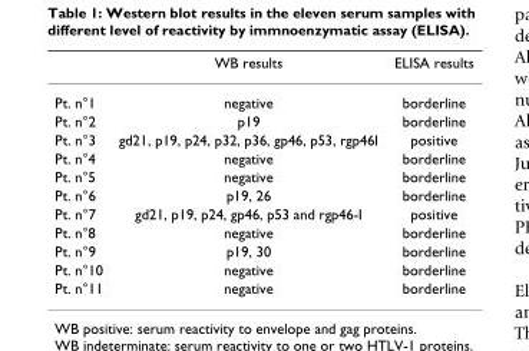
<table><thead><tr><td></td><td>WB results</td><td>ELISA results</td></tr></thead><tbody><tr><td>Pt. n°1</td><td>negative</td><td>borderline</td></tr><tr><td>Pt. n°2</td><td>p19</td><td>borderline</td></tr><tr><td>Pt. n°3</td><td>gd21, p19, p24, p32, p36, gp46, p53, rgp46I</td><td>positive</td></tr><tr><td>Pt. n°4</td><td>negative</td><td>borderline</td></tr><tr><td>Pt. n°5</td><td>negative</td><td>borderline</td></tr><tr><td>Pt. n°6</td><td>p19, 26</td><td>borderline</td></tr><tr><td>Pt. n°7</td><td>gd21, p19, p24, gp46, p53 and rgp46-I</td><td>positive</td></tr><tr><td>Pt. n°8</td><td>negative</td><td>borderline</td></tr><tr><td>Pt. n°9</td><td>p19, 30</td><td>borderline</td></tr><tr><td>Pt. n°10</td><td>negative</td><td>borderline</td></tr><tr><td>Pt. n°11</td><td>negative</td><td>borderline</td></tr></tbody></table>